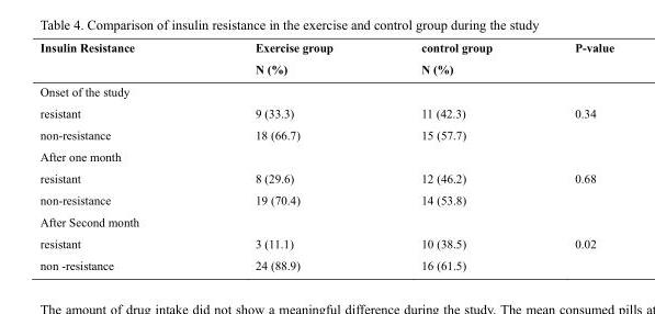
<table><thead><tr><td>Insulin Resistance</td><td>Exercise group N (%)</td><td>control group N (%)</td><td>P-value</td></tr></thead><tbody><tr><td colspan="4">Onset of the study</td></tr><tr><td>resistant</td><td>9 (33.3)</td><td>11 (42.3)</td><td>0.34</td></tr><tr><td>non-resistance</td><td>18 (66.7)</td><td>15 (57.7)</td><td></td></tr><tr><td colspan="4">After one month</td></tr><tr><td>resistant</td><td>8 (29.6)</td><td>12 (46.2)</td><td>0.68</td></tr><tr><td>non-resistance</td><td>19 (70.4)</td><td>14 (53.8)</td><td></td></tr><tr><td colspan="4">After Second month</td></tr><tr><td>resistant</td><td>3 (11.1)</td><td>10 (38.5)</td><td>0.02</td></tr><tr><td>non -resistance</td><td>24 (88.9)</td><td>16 (61.5)</td><td></td></tr></tbody></table>